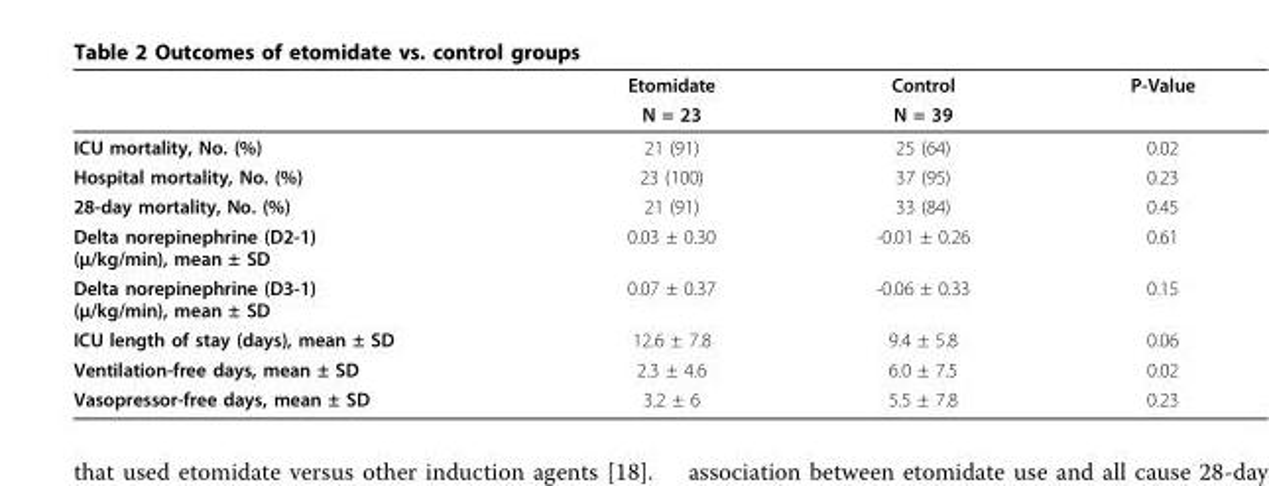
<table><thead><tr><td rowspan="2"></td><td rowspan="2">Etomidate N = 23</td><td rowspan="2">Control N = 39</td><td rowspan="2">P-Value</td></tr><tr></tr></thead><tbody><tr><td>ICU mortality, No. (%)</td><td>21 (91)</td><td>25 (64)</td><td>0.02</td></tr><tr><td>Hospital mortality, No. (%)</td><td>23 (100)</td><td>37 (95)</td><td>0.23</td></tr><tr><td>28-day mortality, No. (%)</td><td>21 (91)</td><td>33 (84)</td><td>0.45</td></tr><tr><td>Delta norepinephrine (D2-1) (μ/kg/min), mean ± SD</td><td>0.03 ± 0.30</td><td>-0.01 ± 0.26</td><td>0.61</td></tr><tr><td>Delta norepinephrine (D3-1) (μ/kg/min), mean ± SD</td><td>0.07 ± 0.37</td><td>-0.06 ± 0.33</td><td>0.15</td></tr><tr><td>ICU length of stay (days), mean ± SD</td><td>12.6 ± 7.8</td><td>9.4 ± 5.8</td><td>0.06</td></tr><tr><td>Ventilation-free days, mean ± SD</td><td>2.3 ± 4.6</td><td>6.0 ± 7.5</td><td>0.02</td></tr><tr><td>Vasopressor-free days, mean ± SD</td><td>3.2 ± 6</td><td>5.5 ± 7.8</td><td>0.23</td></tr></tbody></table>